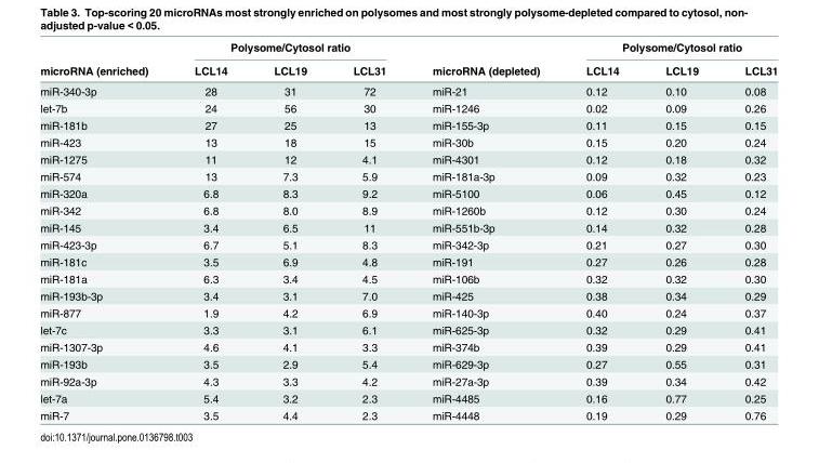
<table><thead><tr><td rowspan="2">microRNA (enriched)</td><td colspan="3">Polysome/Cytosol ratio</td><td rowspan="2">microRNA (depleted)</td><td colspan="3">Polysome/Cytosol ratio</td></tr><tr><td>LCL14</td><td>LCL19</td><td>LCL31</td><td>LCL14</td><td>LCL19</td><td>LCL31</td></tr></thead><tbody><tr><td>miR-340-3p</td><td>28</td><td>31</td><td>72</td><td>miR-21</td><td>0.12</td><td>0.10</td><td>0.08</td></tr><tr><td>let-7b</td><td>24</td><td>56</td><td>30</td><td>miR-1246</td><td>0.02</td><td>0.09</td><td>0.26</td></tr><tr><td>miR-181b</td><td>27</td><td>25</td><td>13</td><td>miR-155-3p</td><td>0.11</td><td>0.15</td><td>0.15</td></tr><tr><td>miR-423</td><td>13</td><td>18</td><td>15</td><td>miR-30b</td><td>0.15</td><td>0.20</td><td>0.24</td></tr><tr><td>miR-1275</td><td>11</td><td>12</td><td>4.1</td><td>miR-4301</td><td>0.12</td><td>0.18</td><td>0.32</td></tr><tr><td>miR-574</td><td>13</td><td>7.3</td><td>5.9</td><td>miR-181a-3p</td><td>0.09</td><td>0.32</td><td>0.23</td></tr><tr><td>miR-320a</td><td>6.8</td><td>8.3</td><td>9.2</td><td>miR-5100</td><td>0.06</td><td>0.45</td><td>0.12</td></tr><tr><td>miR-342</td><td>6.8</td><td>8.0</td><td>8.9</td><td>miR-1260b</td><td>0.12</td><td>0.30</td><td>0.24</td></tr><tr><td>miR-145</td><td>3.4</td><td>6.5</td><td>11</td><td>miR-551b-3p</td><td>0.14</td><td>0.32</td><td>0.28</td></tr><tr><td>miR-423-3p</td><td>6.7</td><td>5.1</td><td>8.3</td><td>miR-342-3p</td><td>0.21</td><td>0.27</td><td>0.30</td></tr><tr><td>miR-181c</td><td>3.5</td><td>6.9</td><td>4.8</td><td>miR-191</td><td>0.27</td><td>0.26</td><td>0.28</td></tr><tr><td>miR-181a</td><td>6.3</td><td>3.4</td><td>4.5</td><td>miR-106b</td><td>0.32</td><td>0.32</td><td>0.30</td></tr><tr><td>miR-193b-3p</td><td>3.4</td><td>3.1</td><td>7.0</td><td>miR-425</td><td>0.38</td><td>0.34</td><td>0.29</td></tr><tr><td>miR-877</td><td>1.9</td><td>4.2</td><td>6.9</td><td>miR-140-3p</td><td>0.40</td><td>0.24</td><td>0.37</td></tr><tr><td>let-7c</td><td>3.3</td><td>3.1</td><td>6.1</td><td>miR-625-3p</td><td>0.32</td><td>0.29</td><td>0.41</td></tr><tr><td>miR-1307-3p</td><td>4.6</td><td>4.1</td><td>3.3</td><td>miR-374b</td><td>0.39</td><td>0.29</td><td>0.41</td></tr><tr><td>miR-193b</td><td>3.5</td><td>2.9</td><td>5.4</td><td>miR-629-3p</td><td>0.27</td><td>0.55</td><td>0.31</td></tr><tr><td>miR-92a-3p</td><td>4.3</td><td>3.3</td><td>4.2</td><td>miR-27a-3p</td><td>0.39</td><td>0.34</td><td>0.42</td></tr><tr><td>let-7a</td><td>5.4</td><td>3.2</td><td>2.3</td><td>miR-4485</td><td>0.16</td><td>0.77</td><td>0.25</td></tr><tr><td>miR-7</td><td>3.5</td><td>4.4</td><td>2.3</td><td>miR-4448</td><td>0.19</td><td>0.29</td><td>0.76</td></tr></tbody></table>